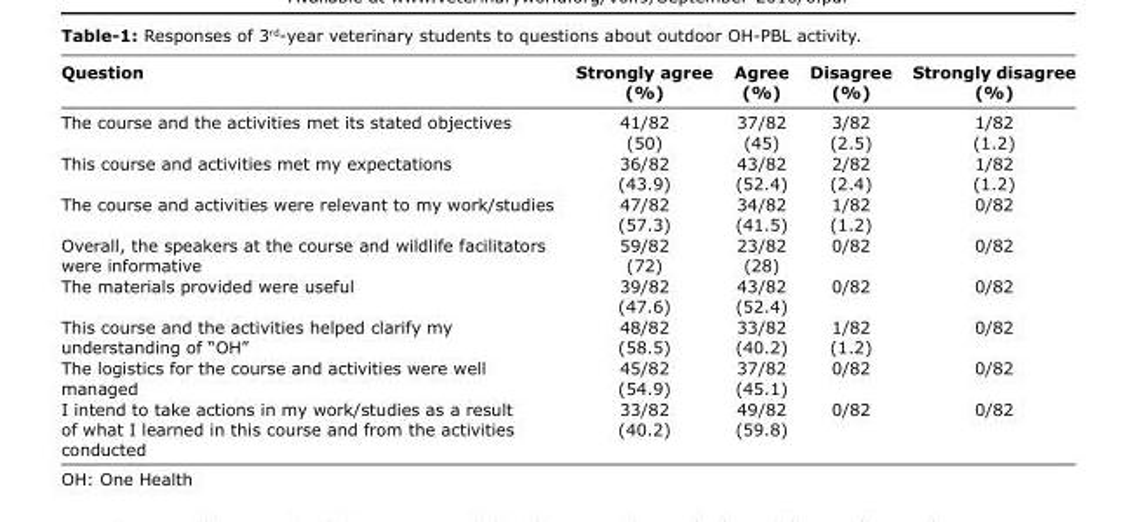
<table><thead><tr><td>Question</td><td>Strongly agree (%)</td><td>Agree (%)</td><td>Disagree (%)</td><td>Strongly disagree (%)</td></tr></thead><tbody><tr><td>The course and the activities met its stated objectives</td><td>41/82 (50)</td><td>37/82 (45)</td><td>3/82 (2.5)</td><td>1/82 (1.2)</td></tr><tr><td>This course and activities met my expectations</td><td>36/82 (43.9)</td><td>43/82 (52.4)</td><td>2/82 (2.4)</td><td>1/82 (1.2)</td></tr><tr><td>The course and activities were relevant to my work/studies</td><td>47/82 (57.3)</td><td>34/82 (41.5)</td><td>1/82 (1.2)</td><td>0/82</td></tr><tr><td>Overall, the speakers at the course and wildlife facilitators were informative</td><td>59/82 (72)</td><td>23/82 (28)</td><td>0/82</td><td>0/82</td></tr><tr><td>The materials provided were useful</td><td>39/82 (47.6)</td><td>43/82 (52.4)</td><td>0/82</td><td>0/82</td></tr><tr><td>This course and the activities helped clarify my understanding of “OH”</td><td>48/82 (58.5)</td><td>33/82 (40.2)</td><td>1/82 (1.2)</td><td>0/82</td></tr><tr><td>The logistics for the course and activities were well managed</td><td>45/82 (54.9)</td><td>37/82 (45.1)</td><td>0/82</td><td>0/82</td></tr><tr><td>I intend to take actions in my work/studies as a result of what I learned in this course and from the activities conducted</td><td>33/82 (40.2)</td><td>49/82 (59.8)</td><td>0/82</td><td>0/82</td></tr></tbody></table>